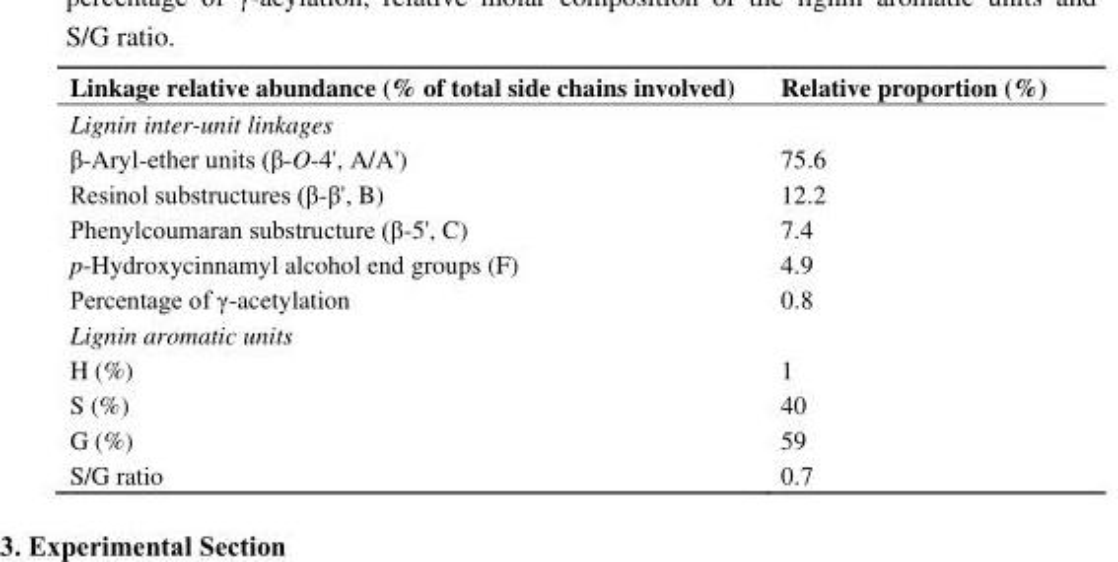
<table><thead><tr><td>Linkage relative abundance (% of total side chains involved)</td><td>Relative proportion (%)</td></tr></thead><tbody><tr><td colspan="2">Lignin inter-unit linkages</td></tr><tr><td>β-Aryl-ether units (β-O-4&#x27;, A/A&#x27;)</td><td>75.6</td></tr><tr><td>Resinol substructures (β-β&#x27;, B)</td><td>12.2</td></tr><tr><td>Phenylcoumaran substructure (β-5&#x27;, C)</td><td>7.4</td></tr><tr><td>p-Hydroxycinnamyl alcohol end groups (F)</td><td>4.9</td></tr><tr><td>Percentage of γ-acetylation</td><td>0.8</td></tr><tr><td colspan="2">Lignin aromatic units</td></tr><tr><td>H (%)</td><td>1</td></tr><tr><td>S (%)</td><td>40</td></tr><tr><td>G (%)</td><td>59</td></tr><tr><td>S/G ratio</td><td>0.7</td></tr></tbody></table>